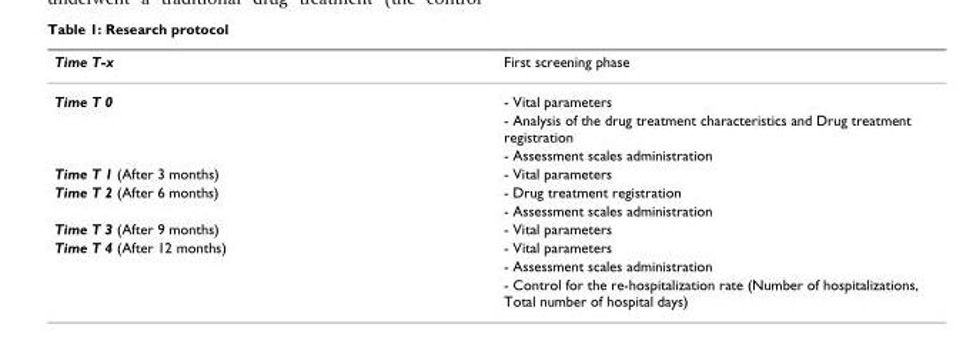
<table><thead><tr><td>Time T-x</td><td>First screening phase</td></tr></thead><tbody><tr><td rowspan="3">Time T 0</td><td>- Vital parameters</td></tr><tr><td>- Analysis of the drug treatment characteristics and Drug treatment registration</td></tr><tr><td>- Assessment scales administration</td></tr><tr><td>Time T 1 (After 3 months)</td><td>- Vital parameters</td></tr><tr><td rowspan="2">Time T 2 (After 6 months)</td><td>- Drug treatment registration</td></tr><tr><td>- Assessment scales administration</td></tr><tr><td>Time T 3 (After 9 months)</td><td>- Vital parameters</td></tr><tr><td rowspan="3">Time T 4 (After 12 months)</td><td>- Vital parameters</td></tr><tr><td>- Assessment scales administration</td></tr><tr><td>- Control for the re-hospitalization rate (Number of hospitalizations, Total number of hospital days)</td></tr></tbody></table>